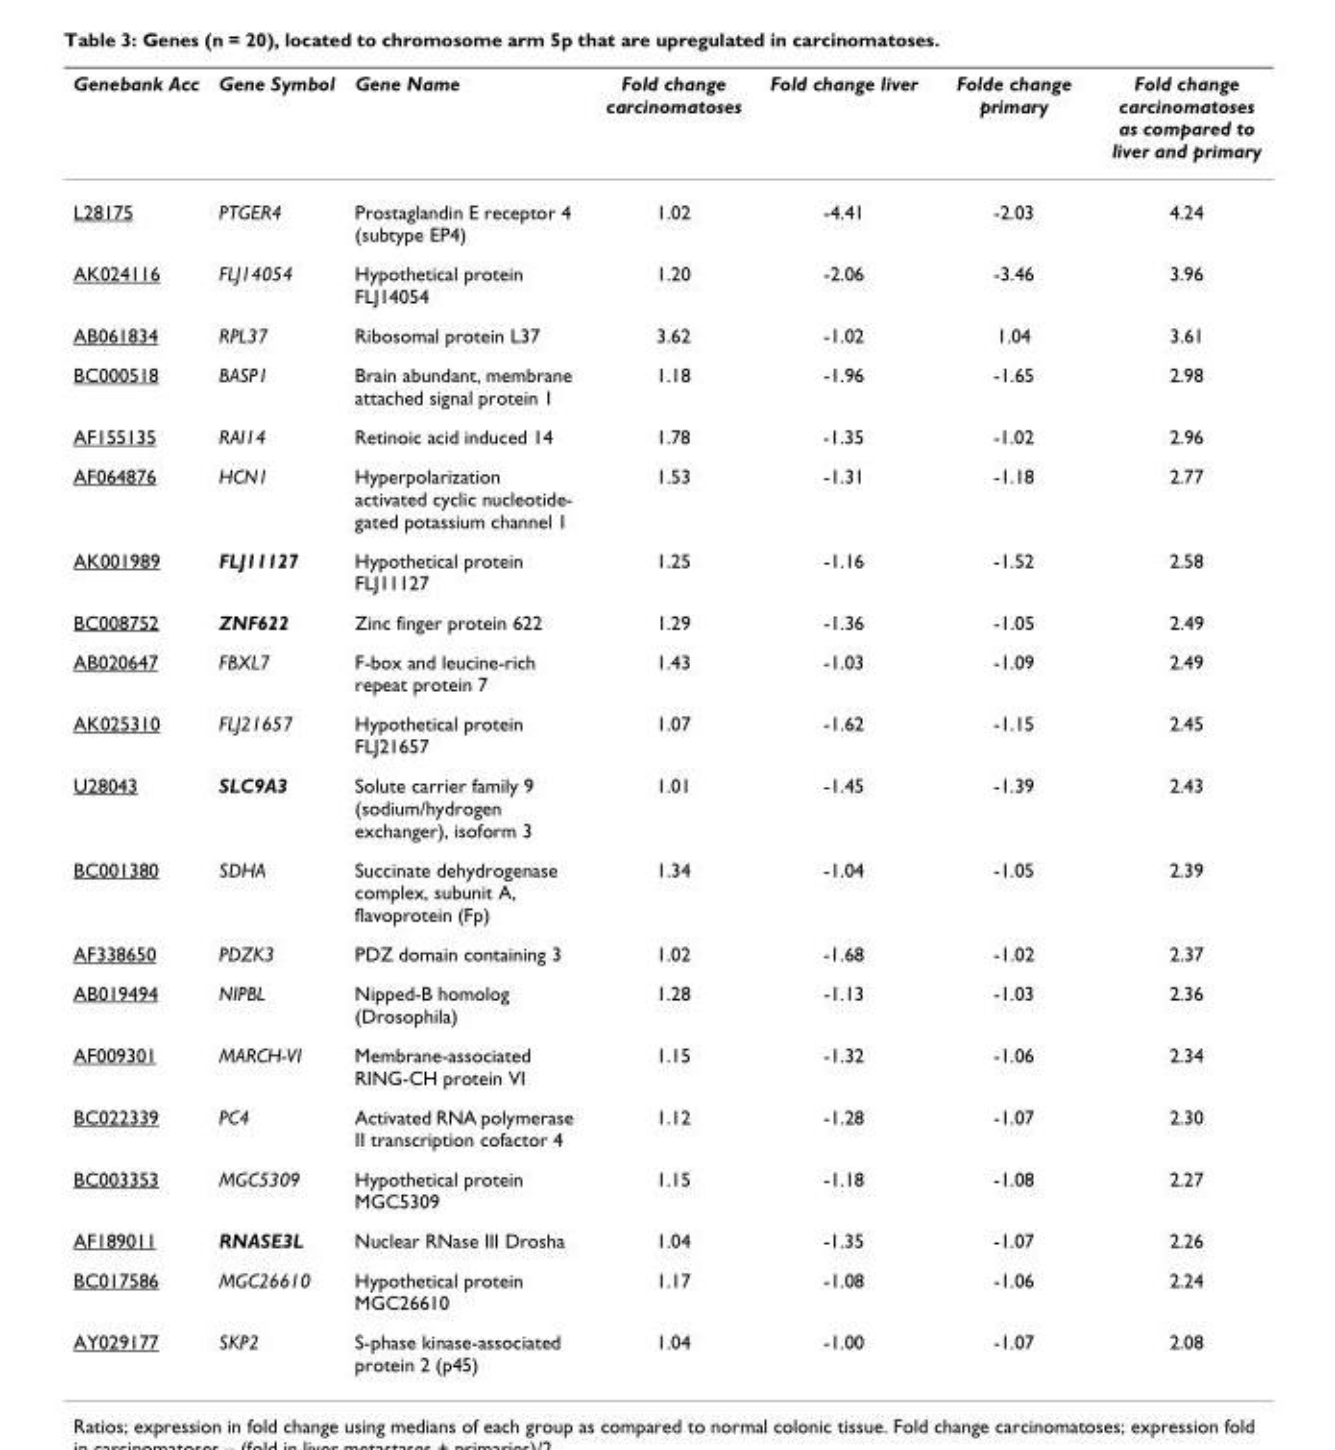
<table><thead><tr><td>Genebank Acc</td><td>Gene Symbol</td><td>Gene Name</td><td>Fold change carcinomatoses</td><td>Fold change liver</td><td>Folde change primary</td><td>Fold change carcinomatoses as compared to liver and primary</td></tr></thead><tbody><tr><td>L28175</td><td>PTGER4</td><td>Prostaglandin E receptor 4 (subtype EP4)</td><td>1.02</td><td>-4.41</td><td>-2.03</td><td>4.24</td></tr><tr><td>AK024116</td><td>FLJ14054</td><td>Hypothetical protein FLJ14054</td><td>1.20</td><td>-2.06</td><td>-3.46</td><td>3.96</td></tr><tr><td>AB061834</td><td>RPL37</td><td>Ribosomal protein L37</td><td>3.62</td><td>-1.02</td><td>1.04</td><td>3.61</td></tr><tr><td>BC000518</td><td>BASP1</td><td>Brain abundant, membrane attached signal protein 1</td><td>1.18</td><td>-1.96</td><td>-1.65</td><td>2.98</td></tr><tr><td>AF155135</td><td>RAI14</td><td>Retinoic acid induced 14</td><td>1.78</td><td>-1.35</td><td>-1.02</td><td>2.96</td></tr><tr><td>AF064876</td><td>HCN1</td><td>Hyperpolarization activated cyclic nucleotide- gated potassium channel 1</td><td>1.53</td><td>-1.31</td><td>-1.18</td><td>2.77</td></tr><tr><td>AK001989</td><td>FLJ11127</td><td>Hypothetical protein FLJ11127</td><td>1.25</td><td>-1.16</td><td>-1.52</td><td>2.58</td></tr><tr><td>BC008752</td><td>ZNF622</td><td>Zinc finger protein 622</td><td>1.29</td><td>-1.36</td><td>-1.05</td><td>2.49</td></tr><tr><td>AB020647</td><td>FBXL7</td><td>F-box and leucine-rich repeat protein 7</td><td>1.43</td><td>-1.03</td><td>-1.09</td><td>2.49</td></tr><tr><td>AK025310</td><td>FLJ21657</td><td>Hypothetical protein FLJ21657</td><td>1.07</td><td>-1.62</td><td>-1.15</td><td>2.45</td></tr><tr><td>U28043</td><td>SLC9A3</td><td>Solute carrier family 9 (sodium/hydrogen exchanger), isoform 3</td><td>1.01</td><td>-1.45</td><td>-1.39</td><td>2.43</td></tr><tr><td>BC001380</td><td>SDHA</td><td>Succinate dehydrogenase complex, subunit A, flavoprotein (Fp)</td><td>1.34</td><td>-1.04</td><td>-1.05</td><td>2.39</td></tr><tr><td>AF338650</td><td>PDZK3</td><td>PDZ domain containing 3</td><td>1.02</td><td>-1.68</td><td>-1.02</td><td>2.37</td></tr><tr><td>AB019494</td><td>NIPBL</td><td>Nipped-B homolog (Drosophila)</td><td>1.28</td><td>-1.13</td><td>-1.03</td><td>2.36</td></tr><tr><td>AF009301</td><td>MARCH-VI</td><td>Membrane-associated RING-CH protein VI</td><td>1.15</td><td>-1.32</td><td>-1.06</td><td>2.34</td></tr><tr><td>BC022339</td><td>PC4</td><td>Activated RNA polymerase II transcription cofactor 4</td><td>1.12</td><td>-1.28</td><td>-1.07</td><td>2.30</td></tr><tr><td>BC003353</td><td>MGC5309</td><td>Hypothetical protein MGC5309</td><td>1.15</td><td>-1.18</td><td>-1.08</td><td>2.27</td></tr><tr><td>AF189011</td><td>RNASE3L</td><td>Nuclear RNase III Drosha</td><td>1.04</td><td>-1.35</td><td>-1.07</td><td>2.26</td></tr><tr><td>BC017586</td><td>MGC26610</td><td>Hypothetical protein MGC26610</td><td>1.17</td><td>-1.08</td><td>-1.06</td><td>2.24</td></tr><tr><td>AY029177</td><td>SKP2</td><td>S-phase kinase-associated protein 2 (p45)</td><td>1.04</td><td>-1.00</td><td>-1.07</td><td>2.08</td></tr></tbody></table>